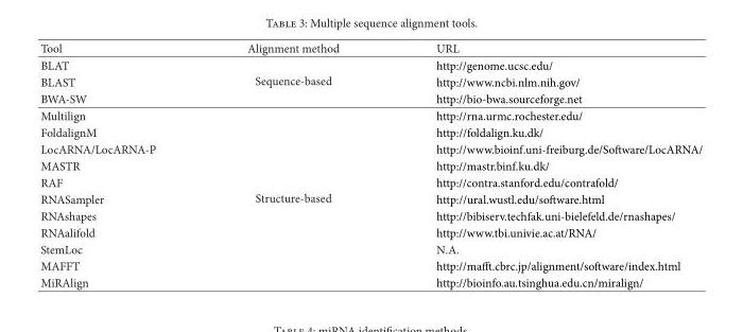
<table><thead><tr><td>Tool</td><td>Alignment method</td><td>URL</td></tr></thead><tbody><tr><td>BLAT</td><td rowspan="3">Sequence-based</td><td>http://genome.ucsc.edu/</td></tr><tr><td>BLAST</td><td>http://www.ncbi.nlm.nih.gov/</td></tr><tr><td>BWA-SW</td><td>http://bio-bwa.sourceforge.net</td></tr><tr><td>Multilign</td><td rowspan="11">Structure-based</td><td>http://rna.urmc.rochester.edu/</td></tr><tr><td>FoldalignM</td><td>http://foldalign.ku.dk/</td></tr><tr><td>LocARNA/LocARNA-P</td><td>http://www.bioinf.uni-freiburg.de/Software/LocARNA/</td></tr><tr><td>MASTR</td><td>http://mastr.binf.ku.dk/</td></tr><tr><td>RAF</td><td>http://contra.stanford.edu/contrafold/</td></tr><tr><td>RNASampler</td><td>http://ural.wustl.edu/software.html</td></tr><tr><td>RNAshapes</td><td>http://bibiserv.techfak.uni-bielefeld.de/rnashapes/</td></tr><tr><td>RNAalifold</td><td>http://www.tbi.univie.ac.at/RNA/</td></tr><tr><td>StemLoc</td><td>N.A.</td></tr><tr><td>MAFFT</td><td>http://mafft.cbrc.jp/alignment/software/index.html</td></tr><tr><td>MiRAlign</td><td>http://bioinfo.au.tsinghua.edu.cn/miralign/</td></tr></tbody></table>